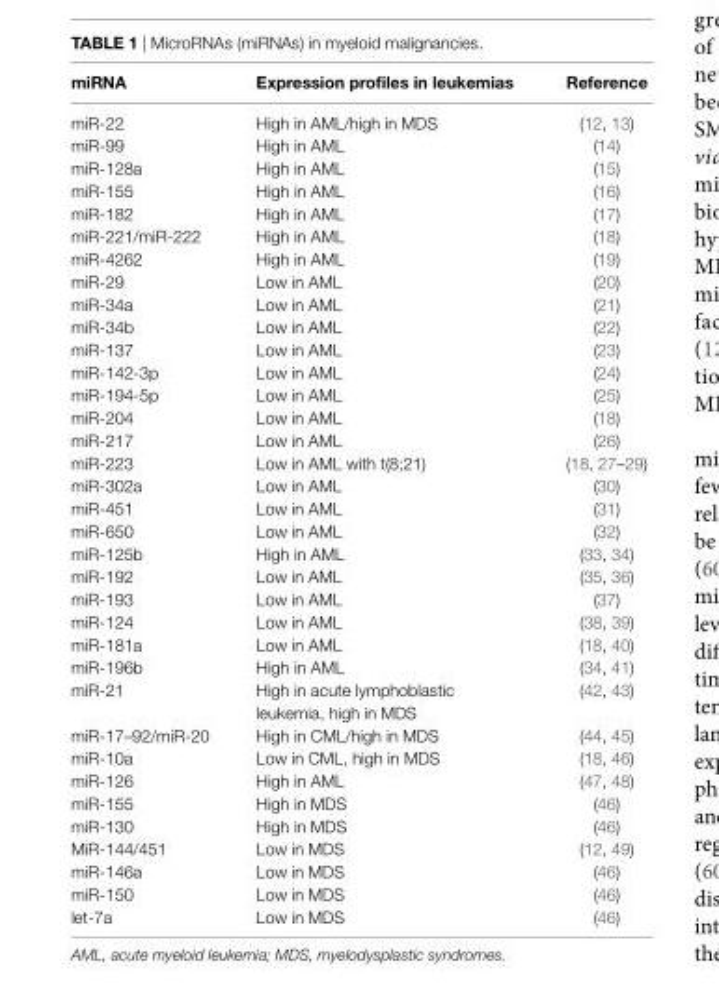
<table><thead><tr><td>miRnA</td><td>expression profiles in leukemias</td><td>Reference</td></tr></thead><tbody><tr><td>miR-22</td><td>High in AML/high in MDS</td><td>(12, 13)</td></tr><tr><td>miR-99</td><td>High in AML</td><td>(14)</td></tr><tr><td>miR-128a</td><td>High in AML</td><td>(15)</td></tr><tr><td>miR-155</td><td>High in AML</td><td>(16)</td></tr><tr><td>miR-182</td><td>High in AML</td><td>(17)</td></tr><tr><td>miR-221/miR-222</td><td>High in AML</td><td>(18)</td></tr><tr><td>miR-4262</td><td>High in AML</td><td>(19)</td></tr><tr><td>miR-29</td><td>Low in AML</td><td>(20)</td></tr><tr><td>miR-34a</td><td>Low in AML</td><td>(21)</td></tr><tr><td>miR-34b</td><td>Low in AML</td><td>(22)</td></tr><tr><td>miR-137</td><td>Low in AML</td><td>(23)</td></tr><tr><td>miR-142-3p</td><td>Low in AML</td><td>(24)</td></tr><tr><td>miR-194-5p</td><td>Low in AML</td><td>(25)</td></tr><tr><td>miR-204</td><td>Low in AML</td><td>(18)</td></tr><tr><td>miR-217</td><td>Low in AML</td><td>(26)</td></tr><tr><td>miR-223</td><td>Low in AML with t(8;21)</td><td>(18, 27–29)</td></tr><tr><td>miR-302a</td><td>Low in AML</td><td>(30)</td></tr><tr><td>miR-451</td><td>Low in AML</td><td>(31)</td></tr><tr><td>miR-650</td><td>Low in AML</td><td>(32)</td></tr><tr><td>miR-125b</td><td>High in AML</td><td>(33, 34)</td></tr><tr><td>miR-192</td><td>Low in AML</td><td>(35, 36)</td></tr><tr><td>miR-193</td><td>Low in AML</td><td>(37)</td></tr><tr><td>miR-124</td><td>Low in AML</td><td>(38, 39)</td></tr><tr><td>miR-181a</td><td>Low in AML</td><td>(18, 40)</td></tr><tr><td>miR-196b</td><td>High in AML</td><td>(34, 41)</td></tr><tr><td>miR-21</td><td>High in acute lymphoblastic leukemia, high in MDS</td><td>(42, 43)</td></tr><tr><td>miR-17–92/miR-20</td><td>High in CML/high in MDS</td><td>(44, 45)</td></tr><tr><td>miR-10a</td><td>Low in CML, high in MDS</td><td>(18, 46)</td></tr><tr><td>miR-126</td><td>High in AML</td><td>(47, 48)</td></tr><tr><td>miR-155</td><td>High in MDS</td><td>(46)</td></tr><tr><td>miR-130</td><td>High in MDS</td><td>(46)</td></tr><tr><td>MiR-144/451</td><td>Low in MDS</td><td>(12, 49)</td></tr><tr><td>miR-146a</td><td>Low in MDS</td><td>(46)</td></tr><tr><td>miR-150</td><td>Low in MDS</td><td>(46)</td></tr><tr><td>let-7a</td><td>Low in MDS</td><td>(46)</td></tr></tbody></table>